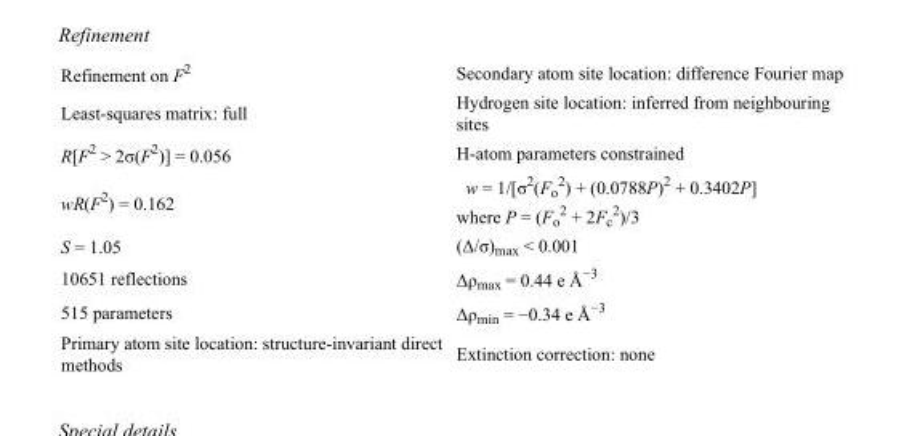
<table><tbody><tr><td>Refinement on F<sup>2</sup></td><td>Secondary atom site location: difference Fourier map</td></tr><tr><td>Least-squares matrix: full</td><td>Hydrogen site location: inferred from neighbouring sites</td></tr><tr><td>R[F<sup>2</sup> &gt; 2σ(F<sup>2</sup>)] = 0.056</td><td>H-atom parameters constrained</td></tr><tr><td>wR(F<sup>2</sup>) = 0.162</td><td>w = 1/[σ<sup>2</sup>(F<sub>o</sub> <sup>2</sup>) + (0.0788P)<sup>2</sup> + 0.3402P] where P = (F<sub>o</sub> <sup>2</sup> + 2F<sub>c</sub> <sup>2</sup>)/3</td></tr><tr><td>S = 1.05</td><td>(Δ/σ)<sub>max</sub> &lt; 0.001</td></tr><tr><td>10651 reflections</td><td>Δρ<sub>max</sub> = 0.44 e Å<sup>−3</sup></td></tr><tr><td>515 parameters</td><td>Δρ<sub>min</sub> = −0.34 e Å<sup>−3</sup></td></tr><tr><td>Primary atom site location: structure-invariant direct methods</td><td>Extinction correction: none</td></tr></tbody></table>